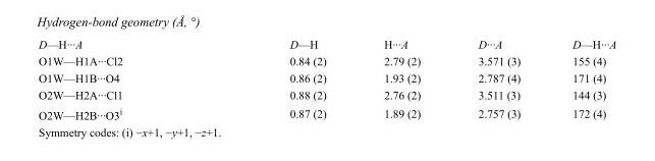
<table><tbody><tr><td>D—H···A</td><td>D—H</td><td>H···A</td><td>D···A</td><td>D—H···A</td></tr><tr><td>O1W—H1A···Cl2</td><td>0.84 (2)</td><td>2.79 (2)</td><td>3.571 (3)</td><td>155 (4)</td></tr><tr><td>O1W—H1B···O4</td><td>0.86 (2)</td><td>1.93 (2)</td><td>2.787 (4)</td><td>171 (4)</td></tr><tr><td>O2W—H2A···Cl1</td><td>0.88 (2)</td><td>2.76 (2)</td><td>3.511 (3)</td><td>144 (3)</td></tr><tr><td>O2W—H2B···O3<sup>i</sup></td><td>0.87 (2)</td><td>1.89 (2)</td><td>2.757 (3)</td><td>172 (4)</td></tr></tbody></table>